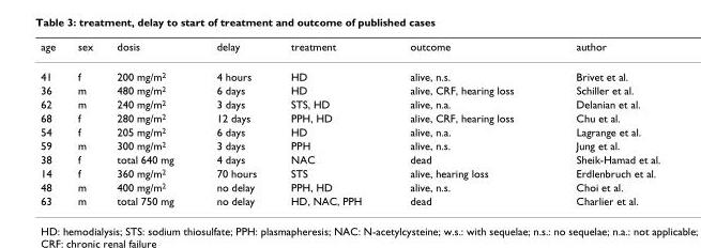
<table><thead><tr><td>age</td><td>sex</td><td>dosis</td><td>delay</td><td>treatment</td><td>outcome</td><td>author</td></tr></thead><tbody><tr><td>41</td><td>f</td><td>200 mg/m2</td><td>4 hours</td><td>HD</td><td>alive, n.s.</td><td>Brivet et al.</td></tr><tr><td>36</td><td>m</td><td>480 mg/m2</td><td>6 days</td><td>HD</td><td>alive, CRF, hearing loss</td><td>Schiller et al.</td></tr><tr><td>62</td><td>m</td><td>240 mg/m2</td><td>3 days</td><td>STS, HD</td><td>alive, n.a.</td><td>Delanian et al.</td></tr><tr><td>68</td><td>f</td><td>280 mg/m2</td><td>12 days</td><td>PPH, HD</td><td>alive, CRF, hearing loss</td><td>Chu et al.</td></tr><tr><td>54</td><td>f</td><td>205 mg/m2</td><td>6 days</td><td>HD</td><td>alive, n.a.</td><td>Lagrange et al.</td></tr><tr><td>59</td><td>m</td><td>300 mg/m2</td><td>3 days</td><td>PPH</td><td>alive, n.s.</td><td>Jung et al.</td></tr><tr><td>38</td><td>f</td><td>total 640 mg</td><td>4 days</td><td>NAC</td><td>dead</td><td>Sheik-Hamad et al.</td></tr><tr><td>14</td><td>f</td><td>360 mg/m2</td><td>70 hours</td><td>STS</td><td>alive, hearing loss</td><td>Erdlenbruch et al.</td></tr><tr><td>48</td><td>m</td><td>400 mg/m2</td><td>no delay</td><td>PPH, HD</td><td>alive, n.s.</td><td>Choi et al.</td></tr><tr><td>63</td><td>m</td><td>total 750 mg</td><td>no delay</td><td>HD, NAC, PPH</td><td>dead</td><td>Charlier et al.</td></tr></tbody></table>